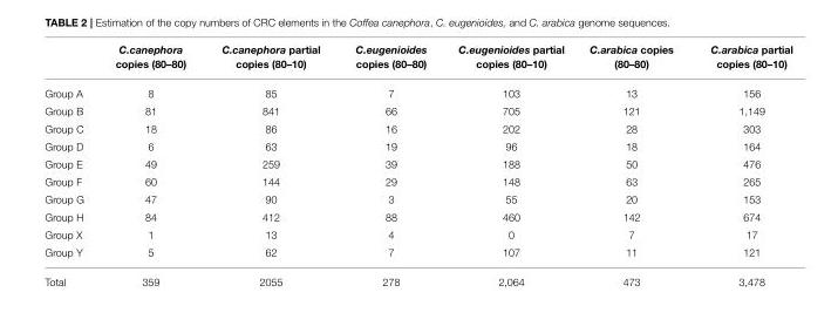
<table><thead><tr><td></td><td>C.canephora copies (80–80)</td><td>C.canephora partial copies (80–10)</td><td>C.eugenioides copies (80–80)</td><td>C.eugenioides partial copies (80–10)</td><td>C.arabica copies (80–80)</td><td>C.arabica partial copies (80–10)</td></tr></thead><tbody><tr><td>Group A</td><td>8</td><td>85</td><td>7</td><td>103</td><td>13</td><td>156</td></tr><tr><td>Group B</td><td>81</td><td>841</td><td>66</td><td>705</td><td>121</td><td>1,149</td></tr><tr><td>Group C</td><td>18</td><td>86</td><td>16</td><td>202</td><td>28</td><td>303</td></tr><tr><td>Group D</td><td>6</td><td>63</td><td>19</td><td>96</td><td>18</td><td>164</td></tr><tr><td>Group E</td><td>49</td><td>259</td><td>39</td><td>188</td><td>50</td><td>476</td></tr><tr><td>Group F</td><td>60</td><td>144</td><td>29</td><td>148</td><td>63</td><td>265</td></tr><tr><td>Group G</td><td>47</td><td>90</td><td>3</td><td>55</td><td>20</td><td>153</td></tr><tr><td>Group H</td><td>84</td><td>412</td><td>88</td><td>460</td><td>142</td><td>674</td></tr><tr><td>Group X</td><td>1</td><td>13</td><td>4</td><td>0</td><td>7</td><td>17</td></tr><tr><td>Group Y</td><td>5</td><td>62</td><td>7</td><td>107</td><td>11</td><td>121</td></tr><tr><td>Total</td><td>359</td><td>2055</td><td>278</td><td>2,064</td><td>473</td><td>3,478</td></tr></tbody></table>